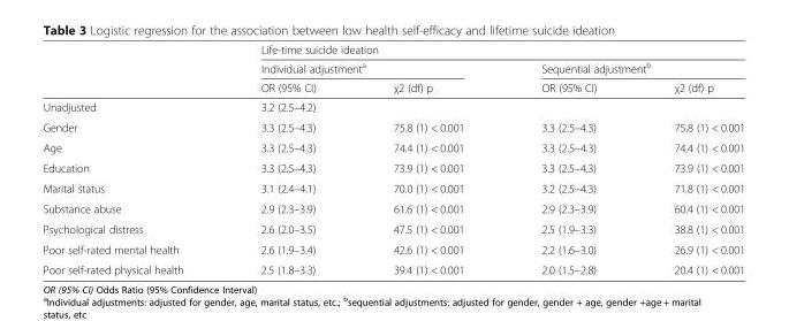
<table><thead><tr><td rowspan="3"></td><td colspan="4">Life-time suicide ideation</td></tr><tr><td colspan="2">Individual adjustment<sup>a</sup></td><td colspan="2">Sequential adjustment<sup>b</sup></td></tr><tr><td>OR (95% CI)</td><td>χ2 (df) p</td><td>OR (95% CI)</td><td>χ2 (df) p</td></tr></thead><tbody><tr><td>Unadjusted</td><td>3.2 (2.5–4.2)</td><td></td><td></td><td></td></tr><tr><td>Gender</td><td>3.3 (2.5–4.3)</td><td>75.8 (1) &lt; 0.001</td><td>3.3 (2.5–4.3)</td><td>75.8 (1) &lt; 0.001</td></tr><tr><td>Age</td><td>3.3 (2.5–4.3)</td><td>74.4 (1) &lt; 0.001</td><td>3.3 (2.5–4.3)</td><td>74.4 (1) &lt; 0.001</td></tr><tr><td>Education</td><td>3.3 (2.5–4.3)</td><td>73.9 (1) &lt; 0.001</td><td>3.3 (2.5–4.3)</td><td>73.9 (1) &lt; 0.001</td></tr><tr><td>Marital status</td><td>3.1 (2.4–4.1)</td><td>70.0 (1) &lt; 0.001</td><td>3.2 (2.5–4.3)</td><td>71.8 (1) &lt; 0.001</td></tr><tr><td>Substance abuse</td><td>2.9 (2.3–3.9)</td><td>61.6 (1) &lt; 0.001</td><td>2.9 (2.3–3.9)</td><td>60.4 (1) &lt; 0.001</td></tr><tr><td>Psychological distress</td><td>2.6 (2.0–3.5)</td><td>47.5 (1) &lt; 0.001</td><td>2.5 (1.9–3.3)</td><td>38.8 (1) &lt; 0.001</td></tr><tr><td>Poor self-rated mental health</td><td>2.6 (1.9–3.4)</td><td>42.6 (1) &lt; 0.001</td><td>2.2 (1.6–3.0)</td><td>26.9 (1) &lt; 0.001</td></tr><tr><td>Poor self-rated physical health</td><td>2.5 (1.8–3.3)</td><td>39.4 (1) &lt; 0.001</td><td>2.0 (1.5–2.8)</td><td>20.4 (1) &lt; 0.001</td></tr></tbody></table>